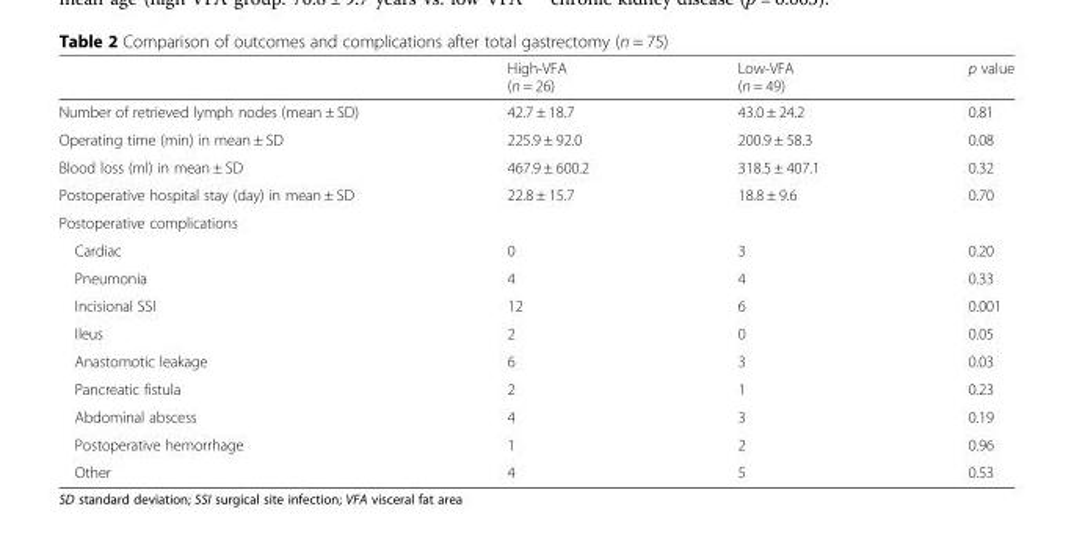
<table><thead><tr><td></td><td>High-VFA (n = 26)</td><td>Low-VFA (n = 49)</td><td>p value</td></tr></thead><tbody><tr><td>Number of retrieved lymph nodes (mean ± SD)</td><td>42.7 ± 18.7</td><td>43.0 ± 24.2</td><td>0.81</td></tr><tr><td>Operating time (min) in mean ± SD</td><td>225.9 ± 92.0</td><td>200.9 ± 58.3</td><td>0.08</td></tr><tr><td>Blood loss (ml) in mean ± SD</td><td>467.9 ± 600.2</td><td>318.5 ± 407.1</td><td>0.32</td></tr><tr><td>Postoperative hospital stay (day) in mean ± SD</td><td>22.8 ± 15.7</td><td>18.8 ± 9.6</td><td>0.70</td></tr><tr><td colspan="4">Postoperative complications</td></tr><tr><td>Cardiac</td><td>0</td><td>3</td><td>0.20</td></tr><tr><td>Pneumonia</td><td>4</td><td>4</td><td>0.33</td></tr><tr><td>Incisional SSI</td><td>12</td><td>6</td><td>0.001</td></tr><tr><td>Ileus</td><td>2</td><td>0</td><td>0.05</td></tr><tr><td>Anastomotic leakage</td><td>6</td><td>3</td><td>0.03</td></tr><tr><td>Pancreatic fistula</td><td>2</td><td>1</td><td>0.23</td></tr><tr><td>Abdominal abscess</td><td>4</td><td>3</td><td>0.19</td></tr><tr><td>Postoperative hemorrhage</td><td>1</td><td>2</td><td>0.96</td></tr><tr><td>Other</td><td>4</td><td>5</td><td>0.53</td></tr></tbody></table>